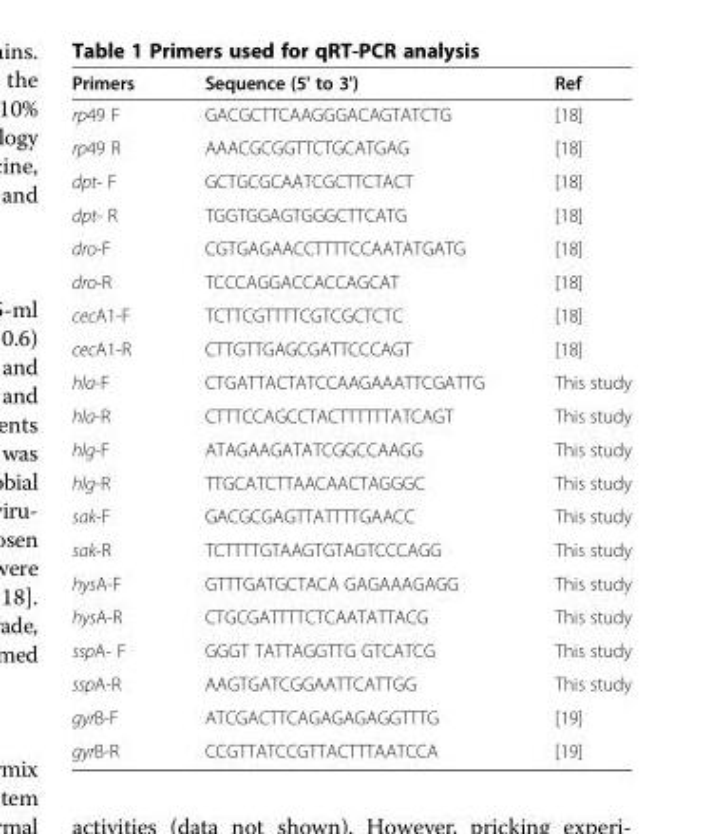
<table><thead><tr><td>Primers</td><td>Sequence (5&#x27; to 3&#x27;)</td><td>Ref</td></tr></thead><tbody><tr><td>rp49 F</td><td>GACGCTTCAAGGGACAGTATCTG</td><td>[18]</td></tr><tr><td>rp49 R</td><td>AAACGCGGTTCTGCATGAG</td><td>[18]</td></tr><tr><td>dpt- F</td><td>GCTGCGCAATCGCTTCTACT</td><td>[18]</td></tr><tr><td>dpt- R</td><td>TGGTGGAGTGGGCTTCATG</td><td>[18]</td></tr><tr><td>dro-F</td><td>CGTGAGAACCTTTTCCAATATGATG</td><td>[18]</td></tr><tr><td>dro-R</td><td>TCCCAGGACCACCAGCAT</td><td>[18]</td></tr><tr><td>cecA1-F</td><td>TCTTCGTTTTCGTCGCTCTC</td><td>[18]</td></tr><tr><td>cecA1-R</td><td>CTTGTTGAGCGATTCCCAGT</td><td>[18]</td></tr><tr><td>hla-F</td><td>CTGATTACTATCCAAGAAATTCGATTG</td><td>This study</td></tr><tr><td>hla-R</td><td>CTTTCCAGCCTACTTTTTTATCAGT</td><td>This study</td></tr><tr><td>hlg-F</td><td>ATAGAAGATATCGGCCAAGG</td><td>This study</td></tr><tr><td>hlg-R</td><td>TTGCATCTTAACAACTAGGGC</td><td>This study</td></tr><tr><td>sak-F</td><td>GACGCGAGTTATTTTGAACC</td><td>This study</td></tr><tr><td>sak-R</td><td>TCTTTTGTAAGTGTAGTCCCAGG</td><td>This study</td></tr><tr><td>hysA-F</td><td>GTTTGATGCTACA GAGAAAGAGG</td><td>This study</td></tr><tr><td>hysA-R</td><td>CTGCGATTTTCTCAATATTACG</td><td>This study</td></tr><tr><td>sspA- F</td><td>GGGT TATTAGGTTG GTCATCG</td><td>This study</td></tr><tr><td>sspA-R</td><td>AAGTGATCGGAATTCATTGG</td><td>This study</td></tr><tr><td>gyrB-F</td><td>ATCGACTTCAGAGAGAGGTTTG</td><td>[19]</td></tr><tr><td>gyrB-R</td><td>CCGTTATCCGTTACTTTAATCCA</td><td>[19]</td></tr></tbody></table>